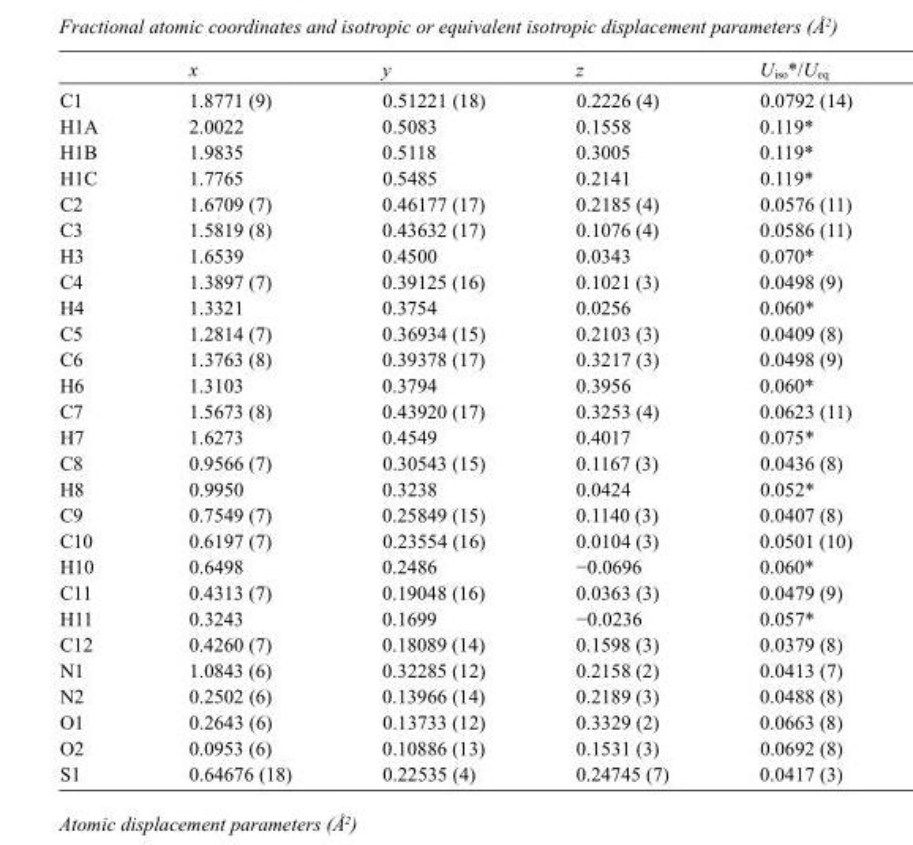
<table><thead><tr><td></td><td>x</td><td>y</td><td>z</td><td>U<sub>iso</sub>*/U<sub>eq</sub></td></tr></thead><tbody><tr><td>C1</td><td>1.8771 (9)</td><td>0.51221 (18)</td><td>0.2226 (4)</td><td>0.0792 (14)</td></tr><tr><td>H1A</td><td>2.0022</td><td>0.5083</td><td>0.1558</td><td>0.119*</td></tr><tr><td>H1B</td><td>1.9835</td><td>0.5118</td><td>0.3005</td><td>0.119*</td></tr><tr><td>H1C</td><td>1.7765</td><td>0.5485</td><td>0.2141</td><td>0.119*</td></tr><tr><td>C2</td><td>1.6709 (7)</td><td>0.46177 (17)</td><td>0.2185 (4)</td><td>0.0576 (11)</td></tr><tr><td>C3</td><td>1.5819 (8)</td><td>0.43632 (17)</td><td>0.1076 (4)</td><td>0.0586 (11)</td></tr><tr><td>H3</td><td>1.6539</td><td>0.4500</td><td>0.0343</td><td>0.070*</td></tr><tr><td>C4</td><td>1.3897 (7)</td><td>0.39125 (16)</td><td>0.1021 (3)</td><td>0.0498 (9)</td></tr><tr><td>H4</td><td>1.3321</td><td>0.3754</td><td>0.0256</td><td>0.060*</td></tr><tr><td>C5</td><td>1.2814 (7)</td><td>0.36934 (15)</td><td>0.2103 (3)</td><td>0.0409 (8)</td></tr><tr><td>C6</td><td>1.3763 (8)</td><td>0.39378 (17)</td><td>0.3217 (3)</td><td>0.0498 (9)</td></tr><tr><td>H6</td><td>1.3103</td><td>0.3794</td><td>0.3956</td><td>0.060*</td></tr><tr><td>C7</td><td>1.5673 (8)</td><td>0.43920 (17)</td><td>0.3253 (4)</td><td>0.0623 (11)</td></tr><tr><td>H7</td><td>1.6273</td><td>0.4549</td><td>0.4017</td><td>0.075*</td></tr><tr><td>C8</td><td>0.9566 (7)</td><td>0.30543 (15)</td><td>0.1167 (3)</td><td>0.0436 (8)</td></tr><tr><td>H8</td><td>0.9950</td><td>0.3238</td><td>0.0424</td><td>0.052*</td></tr><tr><td>C9</td><td>0.7549 (7)</td><td>0.25849 (15)</td><td>0.1140 (3)</td><td>0.0407 (8)</td></tr><tr><td>C10</td><td>0.6197 (7)</td><td>0.23554 (16)</td><td>0.0104 (3)</td><td>0.0501 (10)</td></tr><tr><td>H10</td><td>0.6498</td><td>0.2486</td><td>−0.0696</td><td>0.060*</td></tr><tr><td>C11</td><td>0.4313 (7)</td><td>0.19048 (16)</td><td>0.0363 (3)</td><td>0.0479 (9)</td></tr><tr><td>H11</td><td>0.3243</td><td>0.1699</td><td>−0.0236</td><td>0.057*</td></tr><tr><td>C12</td><td>0.4260 (7)</td><td>0.18089 (14)</td><td>0.1598 (3)</td><td>0.0379 (8)</td></tr><tr><td>N1</td><td>1.0843 (6)</td><td>0.32285 (12)</td><td>0.2158 (2)</td><td>0.0413 (7)</td></tr><tr><td>N2</td><td>0.2502 (6)</td><td>0.13966 (14)</td><td>0.2189 (3)</td><td>0.0488 (8)</td></tr><tr><td>O1</td><td>0.2643 (6)</td><td>0.13733 (12)</td><td>0.3329 (2)</td><td>0.0663 (8)</td></tr><tr><td>O2</td><td>0.0953 (6)</td><td>0.10886 (13)</td><td>0.1531 (3)</td><td>0.0692 (8)</td></tr><tr><td>S1</td><td>0.64676 (18)</td><td>0.22535 (4)</td><td>0.24745 (7)</td><td>0.0417 (3)</td></tr></tbody></table>